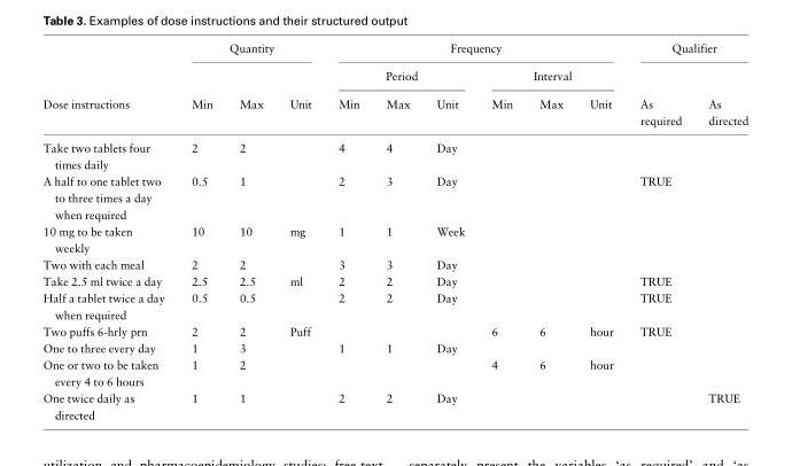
<table><thead><tr><td rowspan="4">Dose instructions</td><td colspan="3">Quantity</td><td colspan="6">Frequency</td><td colspan="2">Qualifier</td></tr><tr><td rowspan="3">Min</td><td rowspan="3">Max</td><td rowspan="3">Unit</td><td colspan="3">Period</td><td colspan="3">Interval</td><td rowspan="3">As required</td><td rowspan="3">As directed</td></tr><tr><td rowspan="2">Min</td><td rowspan="2">Max</td><td rowspan="2">Unit</td><td rowspan="2">Min</td><td rowspan="2">Max</td><td rowspan="2">Unit</td></tr><tr></tr></thead><tbody><tr><td>Take two tablets four times daily</td><td>2</td><td>2</td><td></td><td>4</td><td>4</td><td>Day</td><td></td><td></td><td></td><td></td><td></td></tr><tr><td>A half to one tablet two to three times a day when required</td><td>0.5</td><td>1</td><td></td><td>2</td><td>3</td><td>Day</td><td></td><td></td><td></td><td>TRUE</td><td></td></tr><tr><td>10 mg to be taken weekly</td><td>10</td><td>10</td><td>mg</td><td>1</td><td>1</td><td>Week</td><td></td><td></td><td></td><td></td><td></td></tr><tr><td>Two with each meal</td><td>2</td><td>2</td><td></td><td>3</td><td>3</td><td>Day</td><td></td><td></td><td></td><td></td><td></td></tr><tr><td>Take 2.5 ml twice a day</td><td>2.5</td><td>2.5</td><td>ml</td><td>2</td><td>2</td><td>Day</td><td></td><td></td><td></td><td>TRUE</td><td></td></tr><tr><td>Half a tablet twice a day when required</td><td>0.5</td><td>0.5</td><td></td><td>2</td><td>2</td><td>Day</td><td></td><td></td><td></td><td>TRUE</td><td></td></tr><tr><td>Two puffs 6-hrly prn</td><td>2</td><td>2</td><td>Puff</td><td></td><td></td><td></td><td>6</td><td>6</td><td>hour</td><td>TRUE</td><td></td></tr><tr><td>One to three every day</td><td>1</td><td>3</td><td></td><td>1</td><td>1</td><td>Day</td><td></td><td></td><td></td><td></td><td></td></tr><tr><td>One or two to be taken every 4 to 6 hours</td><td>1</td><td>2</td><td></td><td></td><td></td><td></td><td>4</td><td>6</td><td>hour</td><td></td><td></td></tr><tr><td>One twice daily as directed</td><td>1</td><td>1</td><td></td><td>2</td><td>2</td><td>Day</td><td></td><td></td><td></td><td></td><td>TRUE</td></tr></tbody></table>